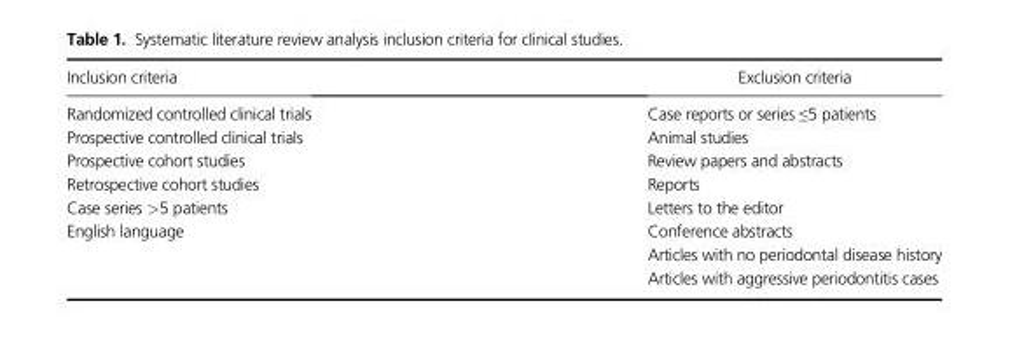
<table><thead><tr><td>Inclusion criteria</td><td>Exclusion criteria</td></tr></thead><tbody><tr><td>Randomized controlled clinical trials Prospective controlled clinical trials Prospective cohort studies Retrospective cohort studies Case series &gt;5 patients English language</td><td>Case reports or series ≤5 patients Animal studies Review papers and abstracts Reports Letters to the editor Conference abstracts Articles with no periodontal disease history Articles with aggressive periodontitis cases</td></tr></tbody></table>